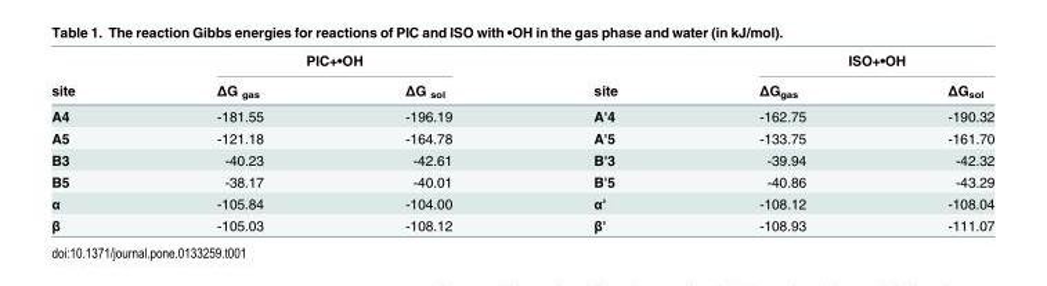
<table><thead><tr><td rowspan="2">site</td><td colspan="2">PIC+•OH</td><td rowspan="2">site</td><td colspan="2">ISO+•OH</td></tr><tr><td>ΔG <sub>gas</sub></td><td>ΔG <sub>sol</sub></td><td>ΔG<sub>gas</sub></td><td>ΔG<sub>sol</sub></td></tr></thead><tbody><tr><td>A4</td><td>-181.55</td><td>-196.19</td><td>A&#x27;4</td><td>-162.75</td><td>-190.32</td></tr><tr><td>A5</td><td>-121.18</td><td>-164.78</td><td>A&#x27;5</td><td>-133.75</td><td>-161.70</td></tr><tr><td>B3</td><td>-40.23</td><td>-42.61</td><td>B&#x27;3</td><td>-39.94</td><td>-42.32</td></tr><tr><td>B5</td><td>-38.17</td><td>-40.01</td><td>B&#x27;5</td><td>-40.86</td><td>-43.29</td></tr><tr><td>α</td><td>-105.84</td><td>-104.00</td><td>α&#x27;</td><td>-108.12</td><td>-108.04</td></tr><tr><td>β</td><td>-105.03</td><td>-108.12</td><td>β&#x27;</td><td>-108.93</td><td>-111.07</td></tr></tbody></table>